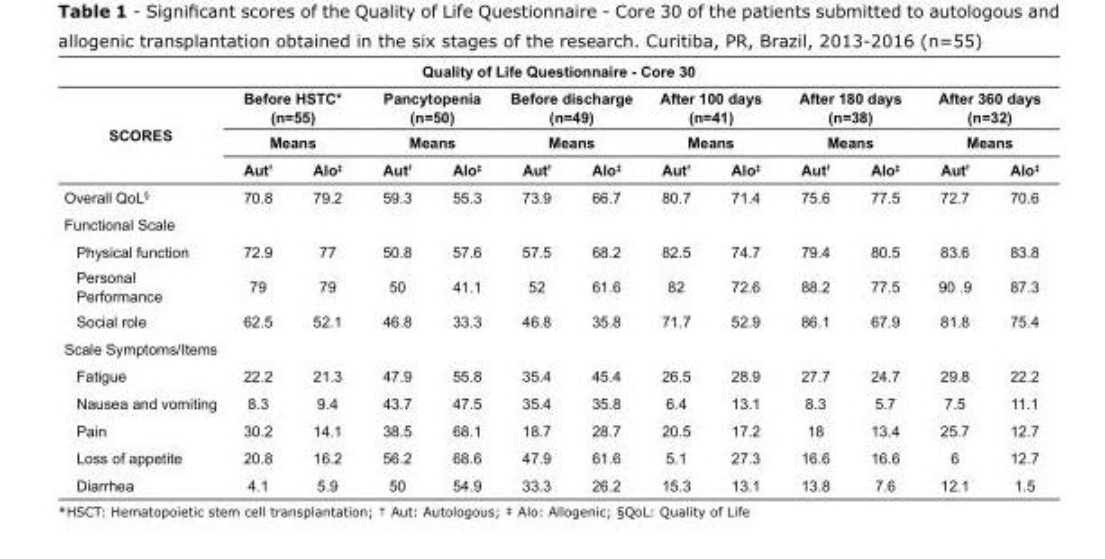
<table><tbody><tr><td colspan="13">Quality of Life Questionnaire - Core 30</td></tr><tr><td rowspan="3">SCORES</td><td colspan="2">Before HSTC* (n=55)</td><td colspan="2">Pancytopenia (n=50)</td><td colspan="2">Before discharge (n=49)</td><td colspan="2">After 100 days (n=41)</td><td colspan="2">After 180 days (n=38)</td><td colspan="2">After 360 days (n=32)</td></tr><tr><td colspan="2">Means</td><td colspan="2">Means</td><td colspan="2">Means</td><td colspan="2">Means</td><td colspan="2">Means</td><td colspan="2">Means</td></tr><tr><td>Aut<sup>†</sup></td><td>Alo<sup>‡</sup></td><td>Aut<sup>†</sup></td><td>Alo<sup>‡</sup></td><td>Aut<sup>†</sup></td><td>Alo<sup>‡</sup></td><td>Aut<sup>†</sup></td><td>Alo<sup>‡</sup></td><td>Aut<sup>†</sup></td><td>Alo<sup>‡</sup></td><td>Aut<sup>†</sup></td><td>Alo<sup>‡</sup></td></tr><tr><td>Overall QoL<sup>§</sup></td><td>70.8</td><td>79.2</td><td>59.3</td><td>55.3</td><td>73.9</td><td>66.7</td><td>80.7</td><td>71.4</td><td>75.6</td><td>77.5</td><td>72.7</td><td>70.6</td></tr><tr><td colspan="13">Functional Scale</td></tr><tr><td>Physical function</td><td>72.9</td><td>77</td><td>50.8</td><td>57.6</td><td>57.5</td><td>68.2</td><td>82.5</td><td>74.7</td><td>79.4</td><td>80.5</td><td>83.6</td><td>83.8</td></tr><tr><td>Personal Performance</td><td>79</td><td>79</td><td>50</td><td>41.1</td><td>52</td><td>61.6</td><td>82</td><td>72.6</td><td>88.2</td><td>77.5</td><td>90 .9</td><td>87.3</td></tr><tr><td>Social role</td><td>62.5</td><td>52.1</td><td>46.8</td><td>33.3</td><td>46.8</td><td>35.8</td><td>71.7</td><td>52.9</td><td>86.1</td><td>67.9</td><td>81.8</td><td>75.4</td></tr><tr><td colspan="13">Scale Symptoms/Items</td></tr><tr><td>Fatigue</td><td>22.2</td><td>21.3</td><td>47.9</td><td>55.8</td><td>35.4</td><td>45.4</td><td>26.5</td><td>28.9</td><td>27.7</td><td>24.7</td><td>29.8</td><td>22.2</td></tr><tr><td>Nausea and vomiting</td><td>8.3</td><td>9.4</td><td>43.7</td><td>47.5</td><td>35.4</td><td>35.8</td><td>6.4</td><td>13.1</td><td>8.3</td><td>5.7</td><td>7.5</td><td>11.1</td></tr><tr><td>Pain</td><td>30.2</td><td>14.1</td><td>38.5</td><td>68.1</td><td>18.7</td><td>28.7</td><td>20.5</td><td>17.2</td><td>18</td><td>13.4</td><td>25.7</td><td>12.7</td></tr><tr><td>Loss of appetite</td><td>20.8</td><td>16.2</td><td>56.2</td><td>68.6</td><td>47.9</td><td>61.6</td><td>5.1</td><td>27.3</td><td>16.6</td><td>16.6</td><td>6</td><td>12.7</td></tr><tr><td>Diarrhea</td><td>4.1</td><td>5.9</td><td>50</td><td>54.9</td><td>33.3</td><td>26.2</td><td>15.3</td><td>13.1</td><td>13.8</td><td>7.6</td><td>12.1</td><td>1.5</td></tr></tbody></table>